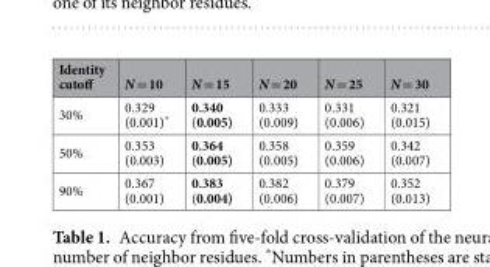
<table><thead><tr><td>Identity cutoff</td><td>N = 10</td><td>N = 15</td><td>N = 20</td><td>N = 25</td><td>N = 30</td></tr></thead><tbody><tr><td>30%</td><td>0.329 (0.001)*</td><td>0.340 (0.005)</td><td>0.333 (0.009)</td><td>0.331 (0.006)</td><td>0.321 (0.015)</td></tr><tr><td>50%</td><td>0.353 (0.003)</td><td>0.364 (0.005)</td><td>0.358 (0.005)</td><td>0.359 (0.006)</td><td>0.342 (0.007)</td></tr><tr><td>90%</td><td>0.367 (0.001)</td><td>0.383 (0.004)</td><td>0.382 (0.006)</td><td>0.379 (0.007)</td><td>0.352 (0.013)</td></tr></tbody></table>